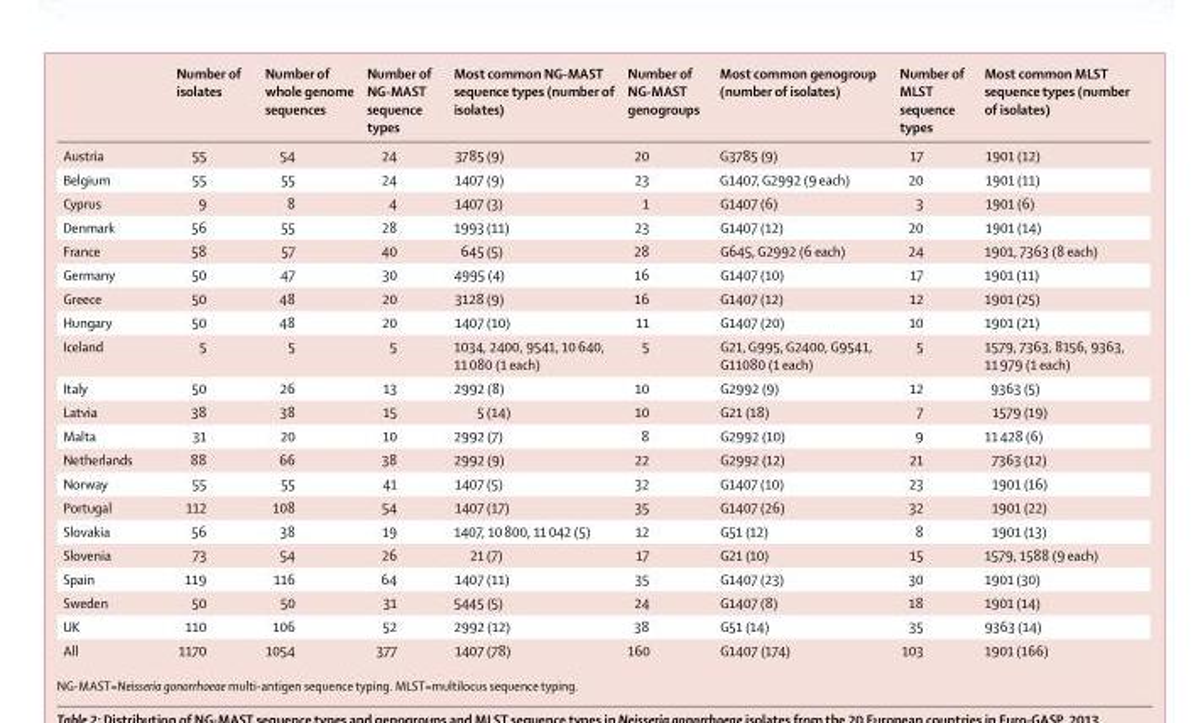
<table><thead><tr><td></td><td>Number of isolates</td><td>Number of whole genome sequences</td><td>Number of NG-MAST sequence types</td><td>Most common NG-MAST sequence types (number of isolates)</td><td>Number of NG-MAST genogroups</td><td>Most common genogroup (number of isolates)</td><td>Number of MLST sequence types</td><td>Most common MLST sequence types (number of isolates)</td></tr></thead><tbody><tr><td>Austria</td><td>55</td><td>54</td><td>24</td><td>3785 (9)</td><td>20</td><td>G3785 (9)</td><td>17</td><td>1901 (12)</td></tr><tr><td>Belgium</td><td>55</td><td>55</td><td>24</td><td>1407 (9)</td><td>23</td><td>G1407, G2992 (9 each)</td><td>20</td><td>1901 (11)</td></tr><tr><td>Cyprus</td><td>9</td><td>8</td><td>4</td><td>1407 (3)</td><td>1</td><td>G1407 (6)</td><td>3</td><td>1901 (6)</td></tr><tr><td>Denmark</td><td>56</td><td>55</td><td>28</td><td>1993 (11)</td><td>23</td><td>G1407 (12)</td><td>20</td><td>1901 (14)</td></tr><tr><td>France</td><td>58</td><td>57</td><td>40</td><td>645 (5)</td><td>28</td><td>G645, G2992 (6 each)</td><td>24</td><td>1901, 7363 (8 each)</td></tr><tr><td>Germany</td><td>50</td><td>47</td><td>30</td><td>4995 (4)</td><td>16</td><td>G1407 (10)</td><td>17</td><td>1901 (11)</td></tr><tr><td>Greece</td><td>50</td><td>48</td><td>20</td><td>3128 (9)</td><td>16</td><td>G1407 (12)</td><td>12</td><td>1901 (25)</td></tr><tr><td>Hungary</td><td>50</td><td>48</td><td>20</td><td>1407 (10)</td><td>11</td><td>G1407 (20)</td><td>10</td><td>1901 (21)</td></tr><tr><td>Iceland</td><td>5</td><td>5</td><td>5</td><td>1034, 2400, 9541, 10 640, 11 080 (1 each)</td><td>5</td><td>G21, G995, G2400, G9541, G11080 (1 each)</td><td>5</td><td>1579, 7363, 8156, 9363, 11 979 (1 each)</td></tr><tr><td>Italy</td><td>50</td><td>26</td><td>13</td><td>2992 (8)</td><td>10</td><td>G2992 (9)</td><td>12</td><td>9363 (5)</td></tr><tr><td>Latvia</td><td>38</td><td>38</td><td>15</td><td>5 (14)</td><td>10</td><td>G21 (18)</td><td>7</td><td>1579 (19)</td></tr><tr><td>Malta</td><td>31</td><td>20</td><td>10</td><td>2992 (7)</td><td>8</td><td>G2992 (10)</td><td>9</td><td>11 428 (6)</td></tr><tr><td>Netherlands</td><td>88</td><td>66</td><td>38</td><td>2992 (9)</td><td>22</td><td>G2992 (12)</td><td>21</td><td>7363 (12)</td></tr><tr><td>Norway</td><td>55</td><td>55</td><td>41</td><td>1407 (5)</td><td>32</td><td>G1407 (10)</td><td>23</td><td>1901 (16)</td></tr><tr><td>Portugal</td><td>112</td><td>108</td><td>54</td><td>1407 (17)</td><td>35</td><td>G1407 (26)</td><td>32</td><td>1901 (22)</td></tr><tr><td>Slovakia</td><td>56</td><td>38</td><td>19</td><td>1407, 10 800, 11 042 (5)</td><td>12</td><td>G51 (12)</td><td>8</td><td>1901 (13)</td></tr><tr><td>Slovenia</td><td>73</td><td>54</td><td>26</td><td>21 (7)</td><td>17</td><td>G21 (10)</td><td>15</td><td>1579, 1588 (9 each)</td></tr><tr><td>Spain</td><td>119</td><td>116</td><td>64</td><td>1407 (11)</td><td>35</td><td>G1407 (23)</td><td>30</td><td>1901 (30)</td></tr><tr><td>Sweden</td><td>50</td><td>50</td><td>31</td><td>5445 (5)</td><td>24</td><td>G1407 (8)</td><td>18</td><td>1901 (14)</td></tr><tr><td>UK</td><td>110</td><td>106</td><td>52</td><td>2992 (12)</td><td>38</td><td>G51 (14)</td><td>35</td><td>9363 (14)</td></tr><tr><td>All</td><td>1170</td><td>1054</td><td>377</td><td>1407 (78)</td><td>160</td><td>G1407 (174)</td><td>103</td><td>1901 (166)</td></tr></tbody></table>